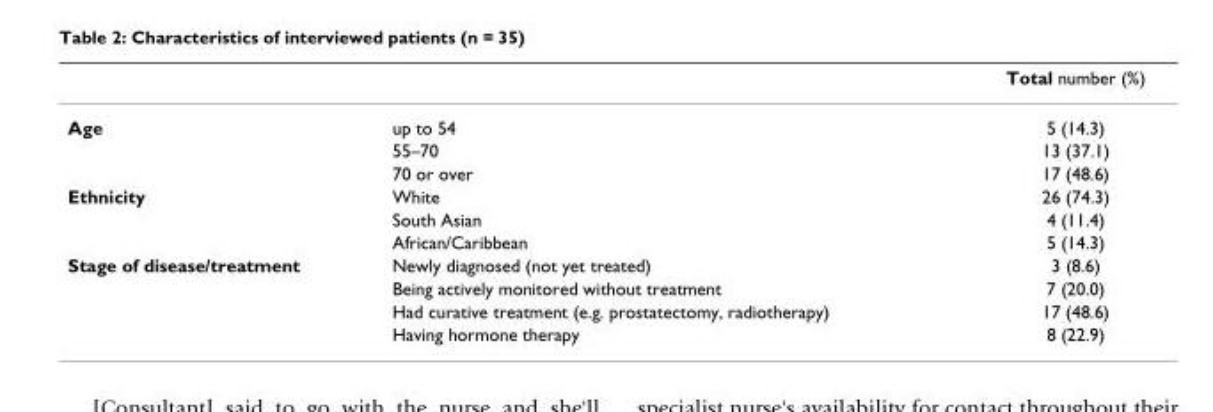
<table><thead><tr><td></td><td></td><td>Total number (%)</td></tr></thead><tbody><tr><td rowspan="3">Age</td><td>up to 54</td><td>5 (14.3)</td></tr><tr><td>55–70</td><td>13 (37.1)</td></tr><tr><td>70 or over</td><td>17 (48.6)</td></tr><tr><td rowspan="3">Ethnicity</td><td>White</td><td>26 (74.3)</td></tr><tr><td>South Asian</td><td>4 (11.4)</td></tr><tr><td>African/Caribbean</td><td>5 (14.3)</td></tr><tr><td rowspan="4">Stage of disease/treatment</td><td>Newly diagnosed (not yet treated)</td><td>3 (8.6)</td></tr><tr><td>Being actively monitored without treatment</td><td>7 (20.0)</td></tr><tr><td>Had curative treatment (e.g. prostatectomy, radiotherapy)</td><td>17 (48.6)</td></tr><tr><td>Having hormone therapy</td><td>8 (22.9)</td></tr></tbody></table>